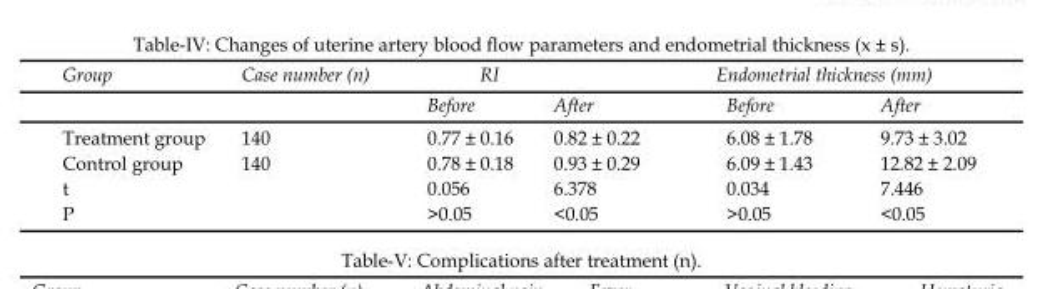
<table><thead><tr><td rowspan="2">Group</td><td rowspan="2">Case number (n)</td><td colspan="2">RI</td><td colspan="2">Endometrial thickness (mm)</td></tr><tr><td>Before</td><td>After</td><td>Before</td><td>After</td></tr></thead><tbody><tr><td>Treatment group</td><td>140</td><td>0.77 ± 0.16</td><td>0.82 ± 0.22</td><td>6.08 ± 1.78</td><td>9.73 ± 3.02</td></tr><tr><td>Control group</td><td>140</td><td>0.78 ± 0.18</td><td>0.93 ± 0.29</td><td>6.09 ± 1.43</td><td>12.82 ± 2.09</td></tr><tr><td>t</td><td></td><td>0.056</td><td>6.378</td><td>0.034</td><td>7.446</td></tr><tr><td>P</td><td></td><td>&gt;0.05</td><td>&lt;0.05</td><td>&gt;0.05</td><td>&lt;0.05</td></tr></tbody></table>